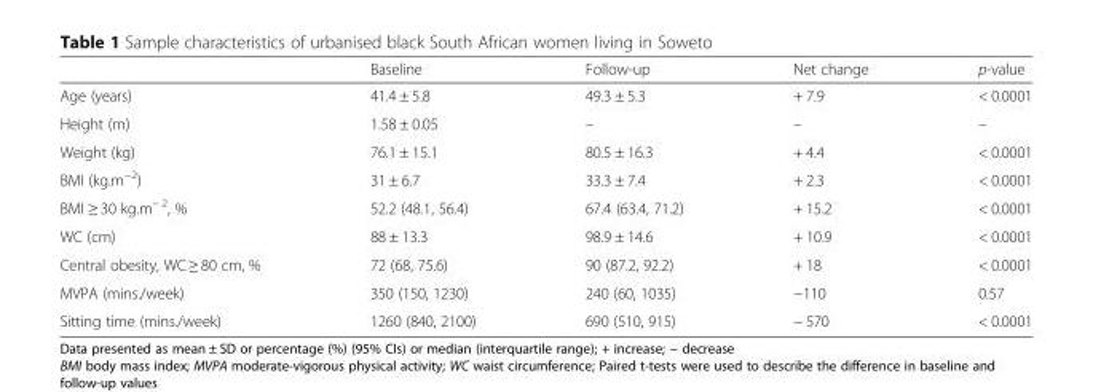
<table><thead><tr><td></td><td>Baseline</td><td>Follow-up</td><td>Net change</td><td>p-value</td></tr></thead><tbody><tr><td>Age (years)</td><td>41.4 ± 5.8</td><td>49.3 ± 5.3</td><td>+ 7.9</td><td>&lt; 0.0001</td></tr><tr><td>Height (m)</td><td>1.58 ± 0.05</td><td>–</td><td>–</td><td>–</td></tr><tr><td>Weight (kg)</td><td>76.1 ± 15.1</td><td>80.5 ± 16.3</td><td>+ 4.4</td><td>&lt; 0.0001</td></tr><tr><td>BMI (kg.m<sup>−2</sup>)</td><td>31 ± 6.7</td><td>33.3 ± 7.4</td><td>+ 2.3</td><td>&lt; 0.0001</td></tr><tr><td>BMI ≥ 30 kg.m<sup>− 2</sup>, %</td><td>52.2 (48.1, 56.4)</td><td>67.4 (63.4, 71.2)</td><td>+ 15.2</td><td>&lt; 0.0001</td></tr><tr><td>WC (cm)</td><td>88 ± 13.3</td><td>98.9 ± 14.6</td><td>+ 10.9</td><td>&lt; 0.0001</td></tr><tr><td>Central obesity, WC ≥ 80 cm, %</td><td>72 (68, 75.6)</td><td>90 (87.2, 92.2)</td><td>+ 18</td><td>&lt; 0.0001</td></tr><tr><td>MVPA (mins./week)</td><td>350 (150, 1230)</td><td>240 (60, 1035)</td><td>−110</td><td>0.57</td></tr><tr><td>Sitting time (mins./week)</td><td>1260 (840, 2100)</td><td>690 (510, 915)</td><td>− 570</td><td>&lt; 0.0001</td></tr></tbody></table>